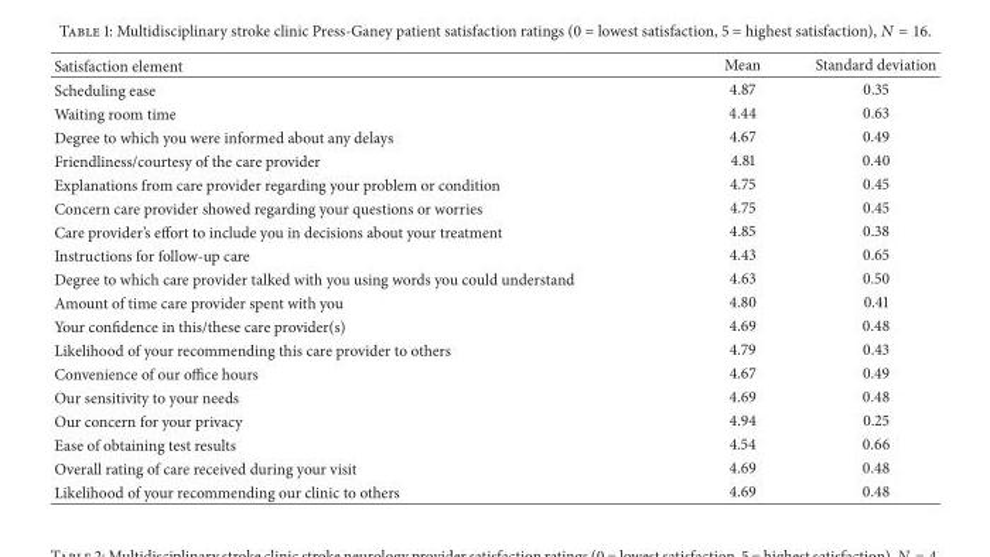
<table><thead><tr><td>Satisfaction element</td><td>Mean</td><td>Standard deviation</td></tr></thead><tbody><tr><td>Scheduling ease</td><td>4.87</td><td>0.35</td></tr><tr><td>Waiting room time</td><td>4.44</td><td>0.63</td></tr><tr><td>Degree to which you were informed about any delays</td><td>4.67</td><td>0.49</td></tr><tr><td>Friendliness/courtesy of the care provider</td><td>4.81</td><td>0.40</td></tr><tr><td>Explanations from care provider regarding your problem or condition</td><td>4.75</td><td>0.45</td></tr><tr><td>Concern care provider showed regarding your questions or worries</td><td>4.75</td><td>0.45</td></tr><tr><td>Care provider’s effort to include you in decisions about your treatment</td><td>4.85</td><td>0.38</td></tr><tr><td>Instructions for follow-up care</td><td>4.43</td><td>0.65</td></tr><tr><td>Degree to which care provider talked with you using words you could understand</td><td>4.63</td><td>0.50</td></tr><tr><td>Amount of time care provider spent with you</td><td>4.80</td><td>0.41</td></tr><tr><td>Your confidence in this/these care provider(s)</td><td>4.69</td><td>0.48</td></tr><tr><td>Likelihood of your recommending this care provider to others</td><td>4.79</td><td>0.43</td></tr><tr><td>Convenience of our office hours</td><td>4.67</td><td>0.49</td></tr><tr><td>Our sensitivity to your needs</td><td>4.69</td><td>0.48</td></tr><tr><td>Our concern for your privacy</td><td>4.94</td><td>0.25</td></tr><tr><td>Ease of obtaining test results</td><td>4.54</td><td>0.66</td></tr><tr><td>Overall rating of care received during your visit</td><td>4.69</td><td>0.48</td></tr><tr><td>Likelihood of your recommending our clinic to others</td><td>4.69</td><td>0.48</td></tr></tbody></table>